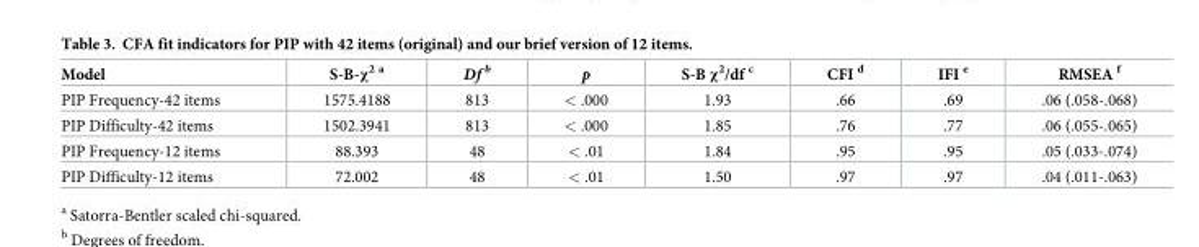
<table><thead><tr><td>Model</td><td>S-B-χ<sup>2 a</sup></td><td>Df <sup>b</sup></td><td>p</td><td>S-B χ<sup>2</sup>/df <sup>c</sup></td><td>CFI <sup>d</sup></td><td>IFI <sup>e</sup></td><td>RMSEA <sup>f</sup></td></tr></thead><tbody><tr><td>PIP Frequency-42 items</td><td>1575.4188</td><td>813</td><td>&lt; .000</td><td>1.93</td><td>.66</td><td>.69</td><td>.06 (.058-.068)</td></tr><tr><td>PIP Difficulty-42 items</td><td>1502.3941</td><td>813</td><td>&lt; .000</td><td>1.85</td><td>.76</td><td>.77</td><td>.06 (.055-.065)</td></tr><tr><td>PIP Frequency-12 items</td><td>88.393</td><td>48</td><td>&lt; .01</td><td>1.84</td><td>.95</td><td>.95</td><td>.05 (.033-.074)</td></tr><tr><td>PIP Difficulty-12 items</td><td>72.002</td><td>48</td><td>&lt; .01</td><td>1.50</td><td>.97</td><td>.97</td><td>.04 (.011-.063)</td></tr></tbody></table>